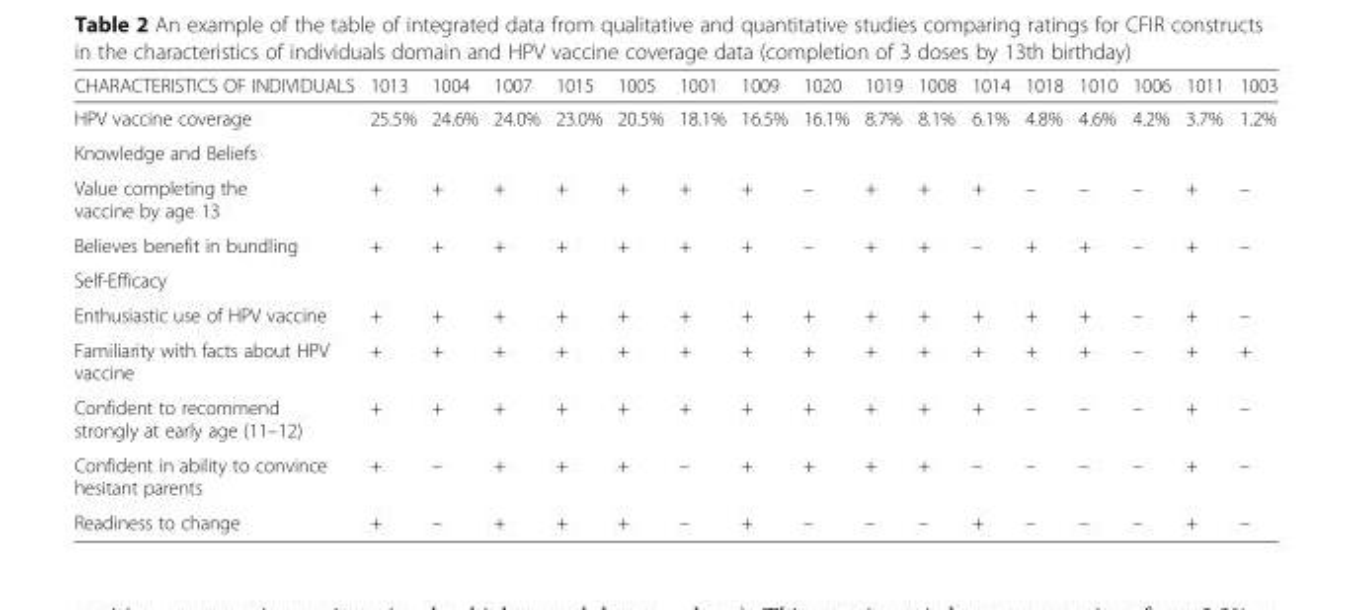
<table><thead><tr><td>CHARACTERISTICS OF INDIVIDUALS</td><td>1013</td><td>1004</td><td>1007</td><td>1015</td><td>1005</td><td>1001</td><td>1009</td><td>1020</td><td>1019</td><td>1008</td><td>1014</td><td>1018</td><td>1010</td><td>1006</td><td>1011</td><td>1003</td></tr></thead><tbody><tr><td>HPV vaccine coverage</td><td>25.5%</td><td>24.6%</td><td>24.0%</td><td>23.0%</td><td>20.5%</td><td>18.1%</td><td>16.5%</td><td>16.1%</td><td>8.7%</td><td>8.1%</td><td>6.1%</td><td>4.8%</td><td>4.6%</td><td>4.2%</td><td>3.7%</td><td>1.2%</td></tr><tr><td colspan="17">Knowledge and Beliefs</td></tr><tr><td>Value completing the vaccine by age 13</td><td>+</td><td>+</td><td>+</td><td>+</td><td>+</td><td>+</td><td>+</td><td>–</td><td>+</td><td>+</td><td>+</td><td>–</td><td>–</td><td>–</td><td>+</td><td>–</td></tr><tr><td>Believes benefit in bundling</td><td>+</td><td>+</td><td>+</td><td>+</td><td>+</td><td>+</td><td>+</td><td>–</td><td>+</td><td>+</td><td>–</td><td>+</td><td>+</td><td>–</td><td>+</td><td>–</td></tr><tr><td colspan="17">Self-Efficacy</td></tr><tr><td>Enthusiastic use of HPV vaccine</td><td>+</td><td>+</td><td>+</td><td>+</td><td>+</td><td>+</td><td>+</td><td>+</td><td>+</td><td>+</td><td>+</td><td>+</td><td>+</td><td>–</td><td>+</td><td>–</td></tr><tr><td>Familiarity with facts about HPV vaccine</td><td>+</td><td>+</td><td>+</td><td>+</td><td>+</td><td>+</td><td>+</td><td>+</td><td>+</td><td>+</td><td>+</td><td>+</td><td>+</td><td>–</td><td>+</td><td>+</td></tr><tr><td>Confident to recommend strongly at early age (11–12)</td><td>+</td><td>+</td><td>+</td><td>+</td><td>+</td><td>+</td><td>+</td><td>+</td><td>+</td><td>+</td><td>+</td><td>–</td><td>–</td><td>–</td><td>+</td><td>–</td></tr><tr><td>Confident in ability to convince hesitant parents</td><td>+</td><td>–</td><td>+</td><td>+</td><td>+</td><td>–</td><td>+</td><td>+</td><td>+</td><td>+</td><td>–</td><td>–</td><td>–</td><td>–</td><td>+</td><td>–</td></tr><tr><td>Readiness to change</td><td>+</td><td>–</td><td>+</td><td>+</td><td>+</td><td>–</td><td>+</td><td>–</td><td>–</td><td>–</td><td>+</td><td>–</td><td>–</td><td>–</td><td>+</td><td>–</td></tr></tbody></table>